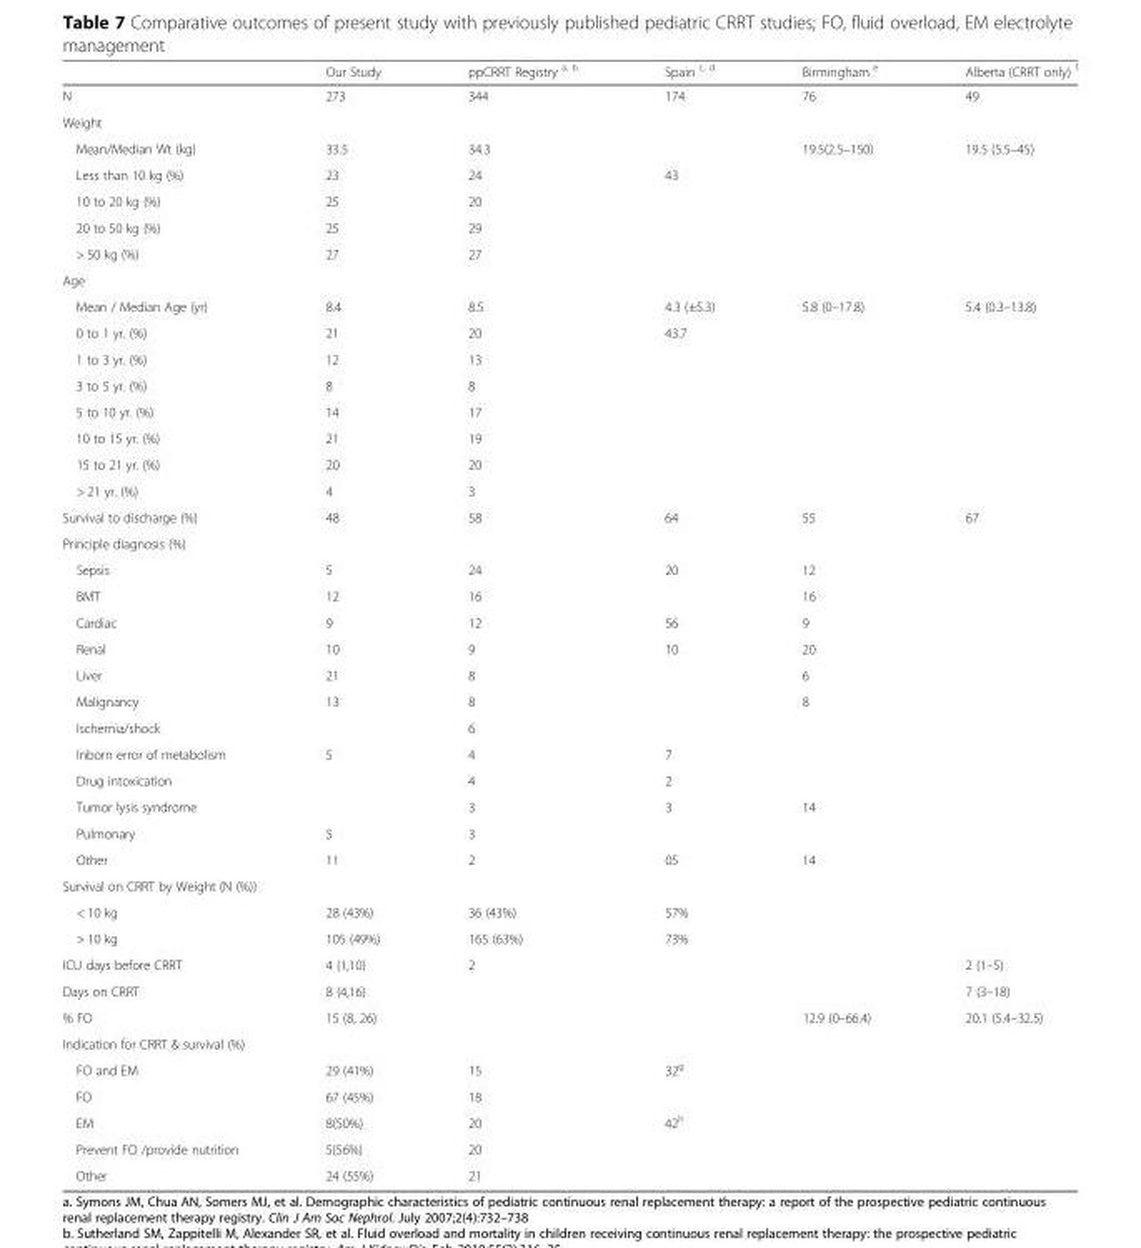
<table><thead><tr><td></td><td>Our Study</td><td>ppCRRT Registry <sup>a, b</sup></td><td>Spain <sup>c, d</sup></td><td>Birmingham <sup>e</sup></td><td>Alberta (CRRT only) <sup>f</sup></td></tr></thead><tbody><tr><td>N</td><td>273</td><td>344</td><td>174</td><td>76</td><td>49</td></tr><tr><td colspan="6">Weight</td></tr><tr><td>Mean/Median Wt (kg)</td><td>33.5</td><td>34.3</td><td></td><td>19.5(2.5–150)</td><td>19.5 (5.5–45)</td></tr><tr><td>Less than 10 kg (%)</td><td>23</td><td>24</td><td>43</td><td></td><td></td></tr><tr><td>10 to 20 kg (%)</td><td>25</td><td>20</td><td></td><td></td><td></td></tr><tr><td>20 to 50 kg (%)</td><td>25</td><td>29</td><td></td><td></td><td></td></tr><tr><td>&gt; 50 kg (%)</td><td>27</td><td>27</td><td></td><td></td><td></td></tr><tr><td colspan="6">Age</td></tr><tr><td>Mean / Median Age (yr)</td><td>8.4</td><td>8.5</td><td>4.3 (±5.3)</td><td>5.8 (0–17.8)</td><td>5.4 (0.3–13.8)</td></tr><tr><td>0 to 1 yr. (%)</td><td>21</td><td>20</td><td>43.7</td><td></td><td></td></tr><tr><td>1 to 3 yr. (%)</td><td>12</td><td>13</td><td></td><td></td><td></td></tr><tr><td>3 to 5 yr. (%)</td><td>8</td><td>8</td><td></td><td></td><td></td></tr><tr><td>5 to 10 yr. (%)</td><td>14</td><td>17</td><td></td><td></td><td></td></tr><tr><td>10 to 15 yr. (%)</td><td>21</td><td>19</td><td></td><td></td><td></td></tr><tr><td>15 to 21 yr. (%)</td><td>20</td><td>20</td><td></td><td></td><td></td></tr><tr><td>&gt; 21 yr. (%)</td><td>4</td><td>3</td><td></td><td></td><td></td></tr><tr><td>Survival to discharge (%)</td><td>48</td><td>58</td><td>64</td><td>55</td><td>67</td></tr><tr><td colspan="6">Principle diagnosis (%)</td></tr><tr><td>Sepsis</td><td>5</td><td>24</td><td>20</td><td>12</td><td></td></tr><tr><td>BMT</td><td>12</td><td>16</td><td></td><td>16</td><td></td></tr><tr><td>Cardiac</td><td>9</td><td>12</td><td>56</td><td>9</td><td></td></tr><tr><td>Renal</td><td>10</td><td>9</td><td>10</td><td>20</td><td></td></tr><tr><td>Liver</td><td>21</td><td>8</td><td></td><td>6</td><td></td></tr><tr><td>Malignancy</td><td>13</td><td>8</td><td></td><td>8</td><td></td></tr><tr><td>Ischemia/shock</td><td></td><td>6</td><td></td><td></td><td></td></tr><tr><td>Inborn error of metabolism</td><td>5</td><td>4</td><td>7</td><td></td><td></td></tr><tr><td>Drug intoxication</td><td></td><td>4</td><td>2</td><td></td><td></td></tr><tr><td>Tumor lysis syndrome</td><td></td><td>3</td><td>3</td><td>14</td><td></td></tr><tr><td>Pulmonary</td><td>5</td><td>3</td><td></td><td></td><td></td></tr><tr><td>Other</td><td>11</td><td>2</td><td>05</td><td>14</td><td></td></tr><tr><td colspan="6">Survival on CRRT by Weight (N (%))</td></tr><tr><td>&lt; 10 kg</td><td>28 (43%)</td><td>36 (43%)</td><td>57%</td><td></td><td></td></tr><tr><td>&gt; 10 kg</td><td>105 (49%)</td><td>165 (63%)</td><td>73%</td><td></td><td></td></tr><tr><td>ICU days before CRRT</td><td>4 (1,10)</td><td>2</td><td></td><td></td><td>2 (1–5)</td></tr><tr><td>Days on CRRT</td><td>8 (4,16)</td><td></td><td></td><td></td><td>7 (3–18)</td></tr><tr><td>% FO</td><td>15 (8, 26)</td><td></td><td></td><td>12.9 (0–66.4)</td><td>20.1 (5.4–32.5)</td></tr><tr><td colspan="6">Indication for CRRT &amp; survival (%)</td></tr><tr><td>FO and EM</td><td>29 (41%)</td><td>15</td><td>32<sup>g</sup></td><td></td><td></td></tr><tr><td>FO</td><td>67 (45%)</td><td>18</td><td></td><td></td><td></td></tr><tr><td>EM</td><td>8(50%)</td><td>20</td><td>42<sup>h</sup></td><td></td><td></td></tr><tr><td>Prevent FO /provide nutrition</td><td>5(56%)</td><td>20</td><td></td><td></td><td></td></tr><tr><td>Other</td><td>24 (55%)</td><td>21</td><td></td><td></td><td></td></tr></tbody></table>